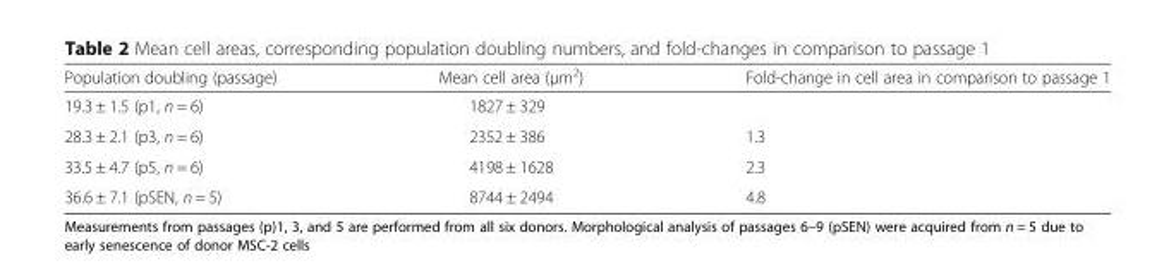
<table><thead><tr><td>Population doubling (passage)</td><td>Mean cell area (μm<sup>2</sup>)</td><td>Fold-change in cell area in comparison to passage 1</td></tr></thead><tbody><tr><td>19.3 ± 1.5 (p1, n = 6)</td><td>1827 ± 329</td><td></td></tr><tr><td>28.3 ± 2.1 (p3, n = 6)</td><td>2352 ± 386</td><td>1.3</td></tr><tr><td>33.5 ± 4.7 (p5, n = 6)</td><td>4198 ± 1628</td><td>2.3</td></tr><tr><td>36.6 ± 7.1 (pSEN, n = 5)</td><td>8744 ± 2494</td><td>4.8</td></tr></tbody></table>